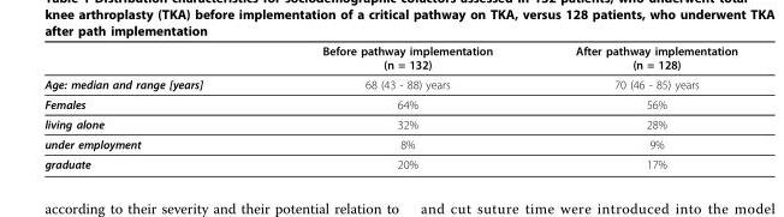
<table><thead><tr><td></td><td>Before pathway implementation (n = 132)</td><td>After pathway implementation (n = 128)</td></tr></thead><tbody><tr><td>Age: median and range [years]</td><td>68 (43 - 88) years</td><td>70 (46 - 85) years</td></tr><tr><td>Females</td><td>64%</td><td>56%</td></tr><tr><td>living alone</td><td>32%</td><td>28%</td></tr><tr><td>under employment</td><td>8%</td><td>9%</td></tr><tr><td>graduate</td><td>20%</td><td>17%</td></tr></tbody></table>